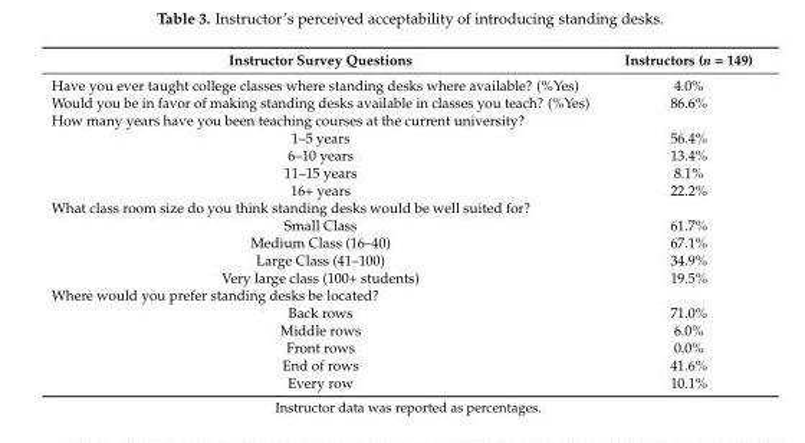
<table><thead><tr><td>Instructor Survey Questions</td><td>Instructors (n = 149)</td></tr></thead><tbody><tr><td>Have you ever taught college classes where standing desks where available? (%Yes)</td><td>4.0%</td></tr><tr><td>Would you be in favor of making standing desks available in classes you teach? (%Yes)</td><td>86.6%</td></tr><tr><td colspan="2">How many years have you been teaching courses at the current university?</td></tr><tr><td>1–5 years</td><td>56.4%</td></tr><tr><td>6–10 years</td><td>13.4%</td></tr><tr><td>11–15 years</td><td>8.1%</td></tr><tr><td>16+ years</td><td>22.2%</td></tr><tr><td colspan="2">What class room size do you think standing desks would be well suited for?</td></tr><tr><td>Small Class</td><td>61.7%</td></tr><tr><td>Medium Class (16–40)</td><td>67.1%</td></tr><tr><td>Large Class (41–100)</td><td>34.9%</td></tr><tr><td>Very large class (100+ students)</td><td>19.5%</td></tr><tr><td colspan="2">Where would you prefer standing desks be located?</td></tr><tr><td>Back rows</td><td>71.0%</td></tr><tr><td>Middle rows</td><td>6.0%</td></tr><tr><td>Front rows</td><td>0.0%</td></tr><tr><td>End of rows</td><td>41.6%</td></tr><tr><td>Every row</td><td>10.1%</td></tr></tbody></table>